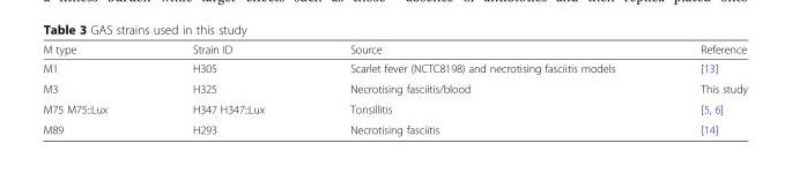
<table><thead><tr><td>M type</td><td>Strain ID</td><td>Source</td><td>Reference</td></tr></thead><tbody><tr><td>M1</td><td>H305</td><td>Scarlet fever (NCTC8198) and necrotising fasciitis models</td><td>[13]</td></tr><tr><td>M3</td><td>H325</td><td>Necrotising fasciitis/blood</td><td>This study</td></tr><tr><td>M75 M75::Lux</td><td>H347 H347::Lux</td><td>Tonsillitis</td><td>[5, 6]</td></tr><tr><td>M89</td><td>H293</td><td>Necrotising fasciitis</td><td>[14]</td></tr></tbody></table>